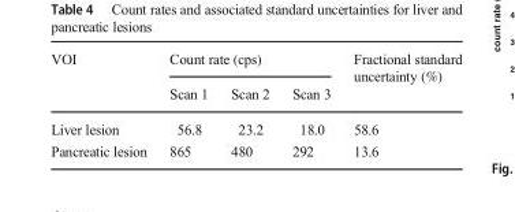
<table><thead><tr><td rowspan="2">VOI</td><td colspan="3">Count rate (cps)</td><td rowspan="2">Fractional standard uncertainty (%)</td></tr><tr><td>Scan 1</td><td>Scan 2</td><td>Scan 3</td></tr></thead><tbody><tr><td>Liver lesion</td><td>56.8</td><td>23.2</td><td>18.0</td><td>58.6</td></tr><tr><td>Pancreatic lesion</td><td>865</td><td>480</td><td>292</td><td>13.6</td></tr></tbody></table>